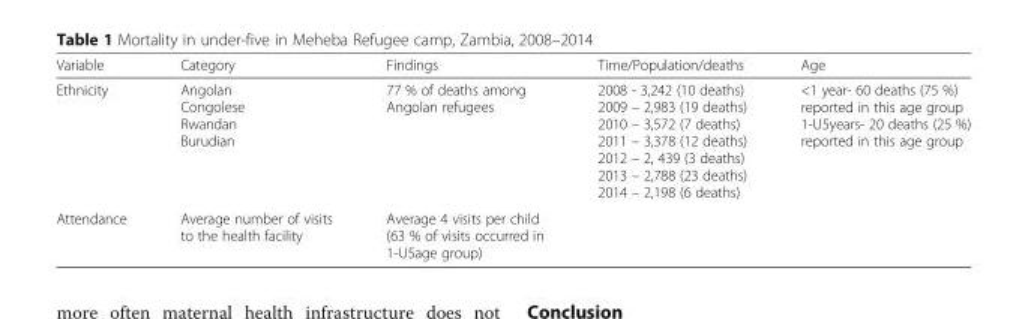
<table><thead><tr><td>Variable</td><td>Category</td><td>Findings</td><td>Time/Population/deaths</td><td>Age</td></tr></thead><tbody><tr><td>Ethnicity</td><td>Angolan Congolese Rwandan Burudian</td><td>77 % of deaths among Angolan refugees</td><td>2008 - 3,242 (10 deaths) 2009 – 2,983 (19 deaths) 2010 – 3,572 (7 deaths) 2011 – 3,378 (12 deaths) 2012 – 2, 439 (3 deaths) 2013 – 2,788 (23 deaths) 2014 – 2,198 (6 deaths)</td><td>&lt;1 year- 60 deaths (75 %) reported in this age group 1-U5years- 20 deaths (25 %) reported in this age group</td></tr><tr><td>Attendance</td><td>Average number of visits to the health facility</td><td>Average 4 visits per child (63 % of visits occurred in 1-U5age group)</td><td></td><td></td></tr></tbody></table>